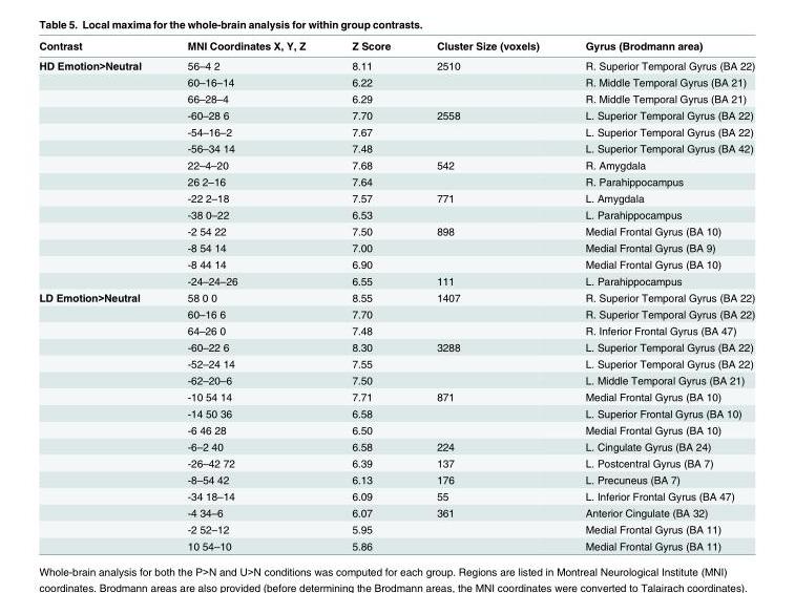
<table><thead><tr><td>Contrast</td><td>MNI Coordinates X, Y, Z</td><td>Z Score</td><td>Cluster Size (voxels)</td><td>Gyrus (Brodmann area)</td></tr></thead><tbody><tr><td rowspan="14">HD Emotion&gt;Neutral</td><td>56–4 2</td><td>8.11</td><td>2510</td><td>R. Superior Temporal Gyrus (BA 22)</td></tr><tr><td>60–16–14</td><td>6.22</td><td></td><td>R. Middle Temporal Gyrus (BA 21)</td></tr><tr><td>66–28–4</td><td>6.29</td><td></td><td>R. Middle Temporal Gyrus (BA 21)</td></tr><tr><td>-60–28 6</td><td>7.70</td><td>2558</td><td>L. Superior Temporal Gyrus (BA 22)</td></tr><tr><td>-54–16–2</td><td>7.67</td><td></td><td>L. Superior Temporal Gyrus (BA 22)</td></tr><tr><td>-56–34 14</td><td>7.48</td><td></td><td>L. Superior Temporal Gyrus (BA 42)</td></tr><tr><td>22–4–20</td><td>7.68</td><td>542</td><td>R. Amygdala</td></tr><tr><td>26 2–16</td><td>7.64</td><td></td><td>R. Parahippocampus</td></tr><tr><td>-22 2–18</td><td>7.57</td><td>771</td><td>L. Amygdala</td></tr><tr><td>-38 0–22</td><td>6.53</td><td></td><td>L. Parahippocampus</td></tr><tr><td>-2 54 22</td><td>7.50</td><td>898</td><td>Medial Frontal Gyrus (BA 10)</td></tr><tr><td>-8 54 14</td><td>7.00</td><td></td><td>Medial Frontal Gyrus (BA 9)</td></tr><tr><td>-8 44 14</td><td>6.90</td><td></td><td>Medial Frontal Gyrus (BA 10)</td></tr><tr><td>-24–24–26</td><td>6.55</td><td>111</td><td>L. Parahippocampus</td></tr><tr><td rowspan="16">LD Emotion&gt;Neutral</td><td>58 0 0</td><td>8.55</td><td>1407</td><td>R. Superior Temporal Gyrus (BA 22)</td></tr><tr><td>60–16 6</td><td>7.70</td><td></td><td>R. Superior Temporal Gyrus (BA 22)</td></tr><tr><td>64–26 0</td><td>7.48</td><td></td><td>R. Inferior Frontal Gyrus (BA 47)</td></tr><tr><td>-60–22 6</td><td>8.30</td><td>3288</td><td>L. Superior Temporal Gyrus (BA 22)</td></tr><tr><td>-52–24 14</td><td>7.55</td><td></td><td>L. Superior Temporal Gyrus (BA 22)</td></tr><tr><td>-62–20–6</td><td>7.50</td><td></td><td>L. Middle Temporal Gyrus (BA 21)</td></tr><tr><td>-10 54 14</td><td>7.71</td><td>871</td><td>Medial Frontal Gyrus (BA 10)</td></tr><tr><td>-14 50 36</td><td>6.58</td><td></td><td>L. Superior Frontal Gyrus (BA 10)</td></tr><tr><td>-6 46 28</td><td>6.50</td><td></td><td>Medial Frontal Gyrus (BA 10)</td></tr><tr><td>-6–2 40</td><td>6.58</td><td>224</td><td>L. Cingulate Gyrus (BA 24)</td></tr><tr><td>-26–42 72</td><td>6.39</td><td>137</td><td>L. Postcentral Gyrus (BA 7)</td></tr><tr><td>-8–54 42</td><td>6.13</td><td>176</td><td>L. Precuneus (BA 7)</td></tr><tr><td>-34 18–14</td><td>6.09</td><td>55</td><td>L. Inferior Frontal Gyrus (BA 47)</td></tr><tr><td>-4 34–6</td><td>6.07</td><td>361</td><td>Anterior Cingulate (BA 32)</td></tr><tr><td>-2 52–12</td><td>5.95</td><td></td><td>Medial Frontal Gyrus (BA 11)</td></tr><tr><td>10 54–10</td><td>5.86</td><td></td><td>Medial Frontal Gyrus (BA 11)</td></tr></tbody></table>